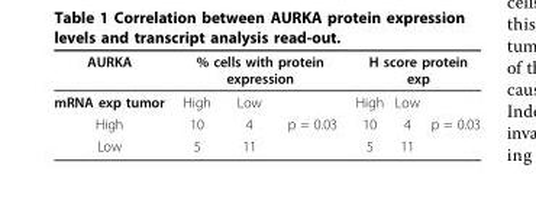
<table><thead><tr><td rowspan="2">AURKA mRNA exp tumor</td><td colspan="3">% cells with protein expression</td><td colspan="3">H score protein exp</td></tr><tr><td>High</td><td>Low</td><td></td><td>High</td><td>Low</td><td></td></tr></thead><tbody><tr><td>High</td><td>10</td><td>4</td><td>p = 0.03</td><td>10</td><td>4</td><td>p = 0.03</td></tr><tr><td>Low</td><td>5</td><td>11</td><td></td><td>5</td><td>11</td><td></td></tr></tbody></table>